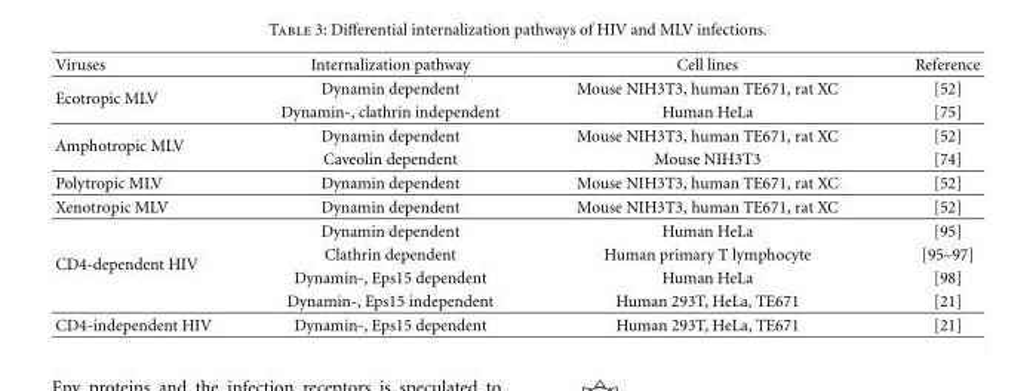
<table><thead><tr><td>Viruses</td><td>Internalization pathway</td><td>Cell lines</td><td>Reference</td></tr></thead><tbody><tr><td rowspan="2">Ecotropic MLV</td><td>Dynamin dependent</td><td>Mouse NIH3T3, human TE671, rat XC</td><td>[52]</td></tr><tr><td>Dynamin-, clathrin independent</td><td>Human HeLa</td><td>[75]</td></tr><tr><td rowspan="2">Amphotropic MLV</td><td>Dynamin dependent</td><td>Mouse NIH3T3, human TE671, rat XC</td><td>[52]</td></tr><tr><td>Caveolin dependent</td><td>Mouse NIH3T3</td><td>[74]</td></tr><tr><td>Polytropic MLV</td><td>Dynamin dependent</td><td>Mouse NIH3T3, human TE671, rat XC</td><td>[52]</td></tr><tr><td>Xenotropic MLV</td><td>Dynamin dependent</td><td>Mouse NIH3T3, human TE671, rat XC</td><td>[52]</td></tr><tr><td rowspan="4">CD4-dependent HIV</td><td>Dynamin dependent</td><td>Human HeLa</td><td>[95]</td></tr><tr><td>Clathrin dependent</td><td>Human primary T lymphocyte</td><td>[95–97]</td></tr><tr><td>Dynamin-, Eps15 dependent</td><td>Human HeLa</td><td>[98]</td></tr><tr><td>Dynamin-, Eps15 independent</td><td>Human 293T, HeLa, TE671</td><td>[21]</td></tr><tr><td>CD4-independent HIV</td><td>Dynamin-, Eps15 dependent</td><td>Human 293T, HeLa, TE671</td><td>[21]</td></tr></tbody></table>